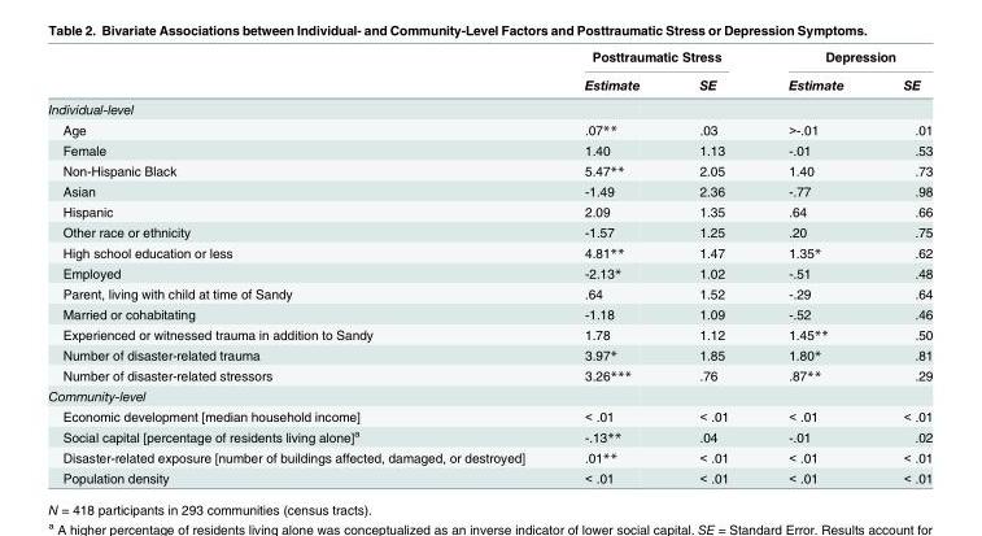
<table><thead><tr><td rowspan="2"></td><td colspan="2">Posttraumatic Stress</td><td colspan="2">Depression</td></tr><tr><td>Estimate</td><td>SE</td><td>Estimate</td><td>SE</td></tr></thead><tbody><tr><td colspan="5">Individual-level</td></tr><tr><td>Age</td><td>.07**</td><td>.03</td><td>&gt;-.01</td><td>.01</td></tr><tr><td>Female</td><td>1.40</td><td>1.13</td><td>-.01</td><td>.53</td></tr><tr><td>Non-Hispanic Black</td><td>5.47**</td><td>2.05</td><td>1.40</td><td>.73</td></tr><tr><td>Asian</td><td>-1.49</td><td>2.36</td><td>-.77</td><td>.98</td></tr><tr><td>Hispanic</td><td>2.09</td><td>1.35</td><td>.64</td><td>.66</td></tr><tr><td>Other race or ethnicity</td><td>-1.57</td><td>1.25</td><td>.20</td><td>.75</td></tr><tr><td>High school education or less</td><td>4.81**</td><td>1.47</td><td>1.35*</td><td>.62</td></tr><tr><td>Employed</td><td>-2.13*</td><td>1.02</td><td>-.51</td><td>.48</td></tr><tr><td>Parent, living with child at time of Sandy</td><td>.64</td><td>1.52</td><td>-.29</td><td>.64</td></tr><tr><td>Married or cohabitating</td><td>-1.18</td><td>1.09</td><td>-.52</td><td>.46</td></tr><tr><td>Experienced or witnessed trauma in addition to Sandy</td><td>1.78</td><td>1.12</td><td>1.45**</td><td>.50</td></tr><tr><td>Number of disaster-related trauma</td><td>3.97*</td><td>1.85</td><td>1.80*</td><td>.81</td></tr><tr><td>Number of disaster-related stressors</td><td>3.26***</td><td>.76</td><td>.87**</td><td>.29</td></tr><tr><td colspan="5">Community-level</td></tr><tr><td>Economic development [median household income]</td><td>&lt; .01</td><td>&lt; .01</td><td>&lt; .01</td><td>&lt; .01</td></tr><tr><td>Social capital [percentage of residents living alone]<sup>a</sup></td><td>-.13**</td><td>.04</td><td>-.01</td><td>.02</td></tr><tr><td>Disaster-related exposure [number of buildings affected, damaged, or destroyed]</td><td>.01**</td><td>&lt; .01</td><td>&lt; .01</td><td>&lt; .01</td></tr><tr><td>Population density</td><td>&lt; .01</td><td>&lt; .01</td><td>&lt; .01</td><td>&lt; .01</td></tr></tbody></table>